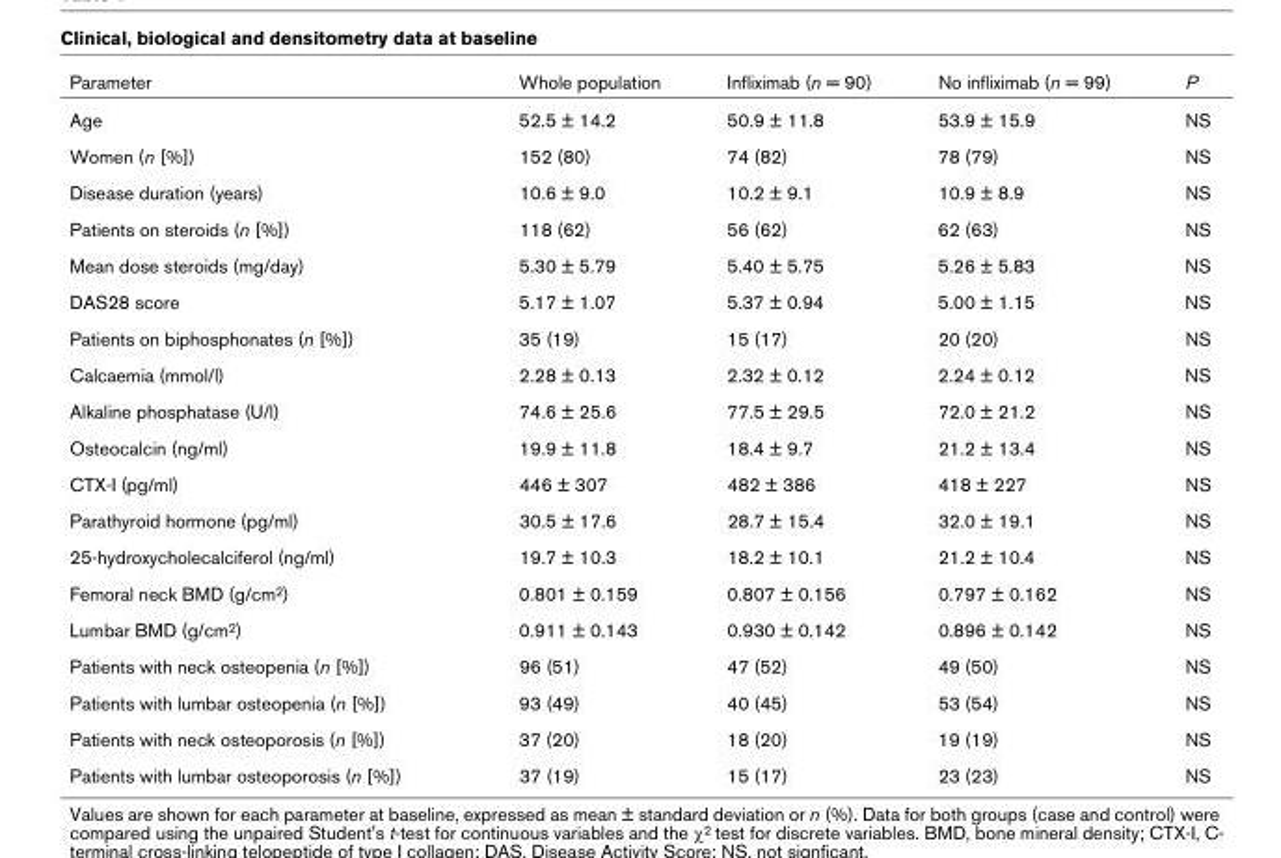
<table><thead><tr><td>Parameter</td><td>Whole population</td><td>Infliximab (n = 90)</td><td>No infliximab (n = 99)</td><td>P</td></tr></thead><tbody><tr><td>Age</td><td>52.5 ± 14.2</td><td>50.9 ± 11.8</td><td>53.9 ± 15.9</td><td>NS</td></tr><tr><td>Women (n [%])</td><td>152 (80)</td><td>74 (82)</td><td>78 (79)</td><td>NS</td></tr><tr><td>Disease duration (years)</td><td>10.6 ± 9.0</td><td>10.2 ± 9.1</td><td>10.9 ± 8.9</td><td>NS</td></tr><tr><td>Patients on steroids (n [%])</td><td>118 (62)</td><td>56 (62)</td><td>62 (63)</td><td>NS</td></tr><tr><td>Mean dose steroids (mg/day)</td><td>5.30 ± 5.79</td><td>5.40 ± 5.75</td><td>5.26 ± 5.83</td><td>NS</td></tr><tr><td>DAS28 score</td><td>5.17 ± 1.07</td><td>5.37 ± 0.94</td><td>5.00 ± 1.15</td><td>NS</td></tr><tr><td>Patients on biphosphonates (n [%])</td><td>35 (19)</td><td>15 (17)</td><td>20 (20)</td><td>NS</td></tr><tr><td>Calcaemia (mmol/l)</td><td>2.28 ± 0.13</td><td>2.32 ± 0.12</td><td>2.24 ± 0.12</td><td>NS</td></tr><tr><td>Alkaline phosphatase (U/l)</td><td>74.6 ± 25.6</td><td>77.5 ± 29.5</td><td>72.0 ± 21.2</td><td>NS</td></tr><tr><td>Osteocalcin (ng/ml)</td><td>19.9 ± 11.8</td><td>18.4 ± 9.7</td><td>21.2 ± 13.4</td><td>NS</td></tr><tr><td>CTX-I (pg/ml)</td><td>446 ± 307</td><td>482 ± 386</td><td>418 ± 227</td><td>NS</td></tr><tr><td>Parathyroid hormone (pg/ml)</td><td>30.5 ± 17.6</td><td>28.7 ± 15.4</td><td>32.0 ± 19.1</td><td>NS</td></tr><tr><td>25-hydroxycholecalciferol (ng/ml)</td><td>19.7 ± 10.3</td><td>18.2 ± 10.1</td><td>21.2 ± 10.4</td><td>NS</td></tr><tr><td>Femoral neck BMD (g/cm<sup>2</sup>)</td><td>0.801 ± 0.159</td><td>0.807 ± 0.156</td><td>0.797 ± 0.162</td><td>NS</td></tr><tr><td>Lumbar BMD (g/cm<sup>2</sup>)</td><td>0.911 ± 0.143</td><td>0.930 ± 0.142</td><td>0.896 ± 0.142</td><td>NS</td></tr><tr><td>Patients with neck osteopenia (n [%])</td><td>96 (51)</td><td>47 (52)</td><td>49 (50)</td><td>NS</td></tr><tr><td>Patients with lumbar osteopenia (n [%])</td><td>93 (49)</td><td>40 (45)</td><td>53 (54)</td><td>NS</td></tr><tr><td>Patients with neck osteoporosis (n [%])</td><td>37 (20)</td><td>18 (20)</td><td>19 (19)</td><td>NS</td></tr><tr><td>Patients with lumbar osteoporosis (n [%])</td><td>37 (19)</td><td>15 (17)</td><td>23 (23)</td><td>NS</td></tr></tbody></table>